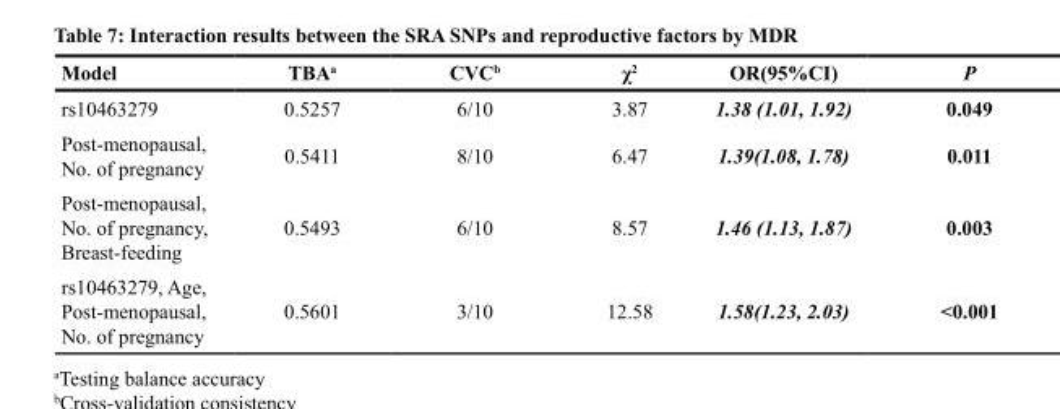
<table><thead><tr><td>Model</td><td>TBA<sup>a</sup></td><td>CVC<sup>b</sup></td><td>χ<sup>2</sup></td><td>OR(95%CI)</td><td>P</td></tr></thead><tbody><tr><td>rs10463279</td><td>0.5257</td><td>6/10</td><td>3.87</td><td>1.38 (1.01, 1.92)</td><td>0.049</td></tr><tr><td>Post-menopausal, No. of pregnancy</td><td>0.5411</td><td>8/10</td><td>6.47</td><td>1.39(1.08, 1.78)</td><td>0.011</td></tr><tr><td>Post-menopausal, No. of pregnancy, Breast-feeding</td><td>0.5493</td><td>6/10</td><td>8.57</td><td>1.46 (1.13, 1.87)</td><td>0.003</td></tr><tr><td>rs10463279, Age, Post-menopausal, No. of pregnancy</td><td>0.5601</td><td>3/10</td><td>12.58</td><td>1.58(1.23, 2.03)</td><td>&lt;0.001</td></tr></tbody></table>